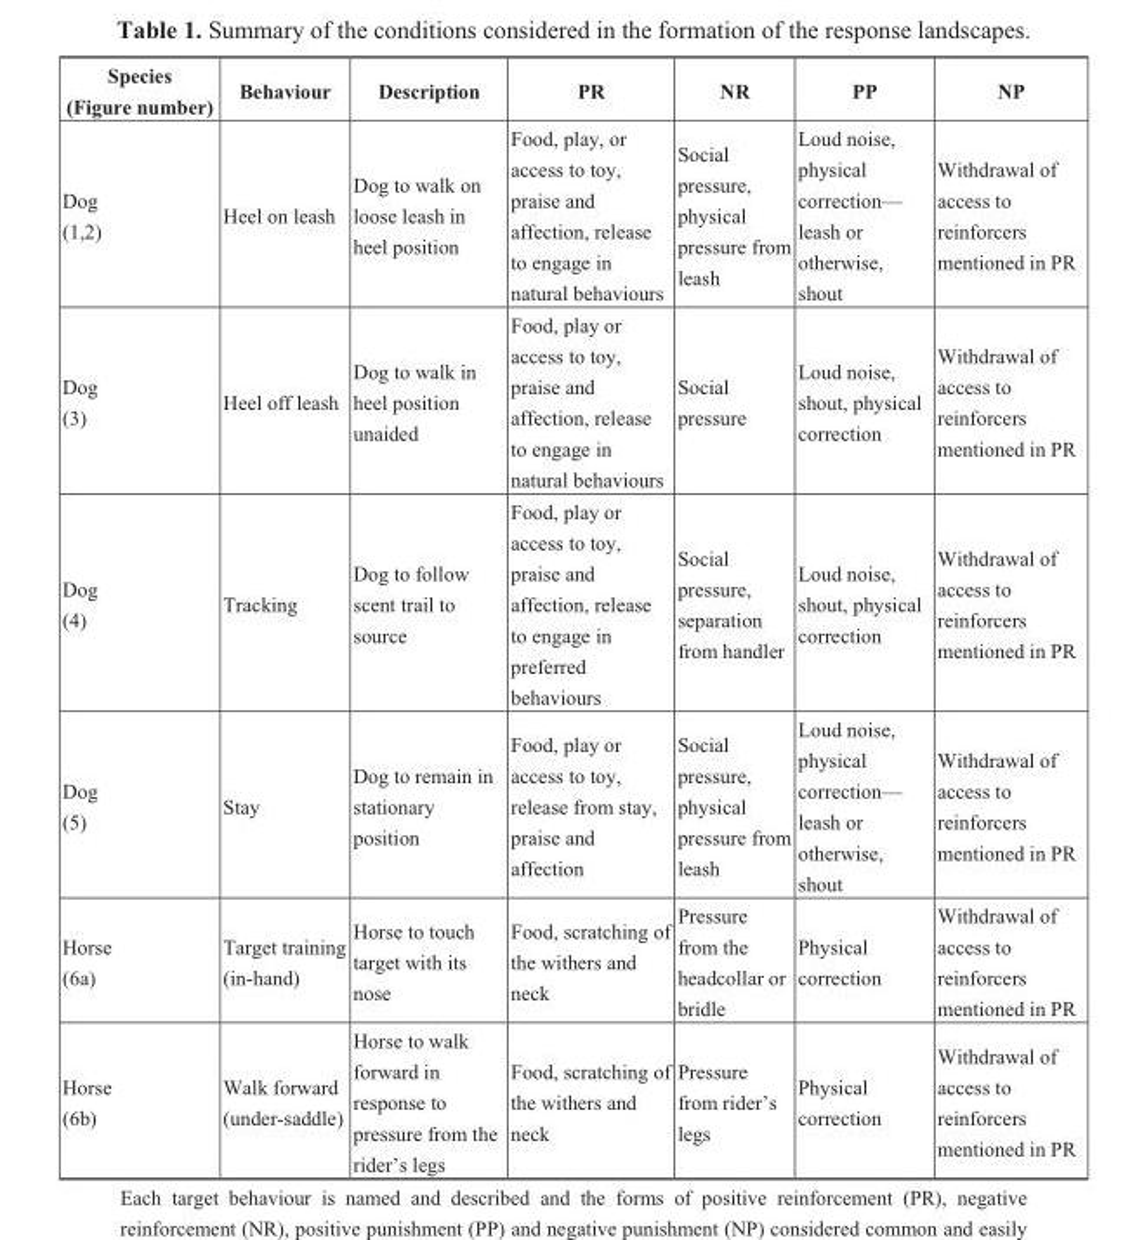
<table><thead><tr><td>Species�� (Figure number)</td><td>Behaviour</td><td>Description</td><td>PR</td><td>NR</td><td>PP</td><td>NP</td></tr></thead><tbody><tr><td>Dog (1,2)</td><td>Heel on leash</td><td>Dog to walk on loose leash in heel position</td><td>Food, play, or access to toy, praise and affection, release to engage in natural behaviours</td><td>Social pressure, physical pressure from leash</td><td>Loud noise, physical correction— leash or otherwise, shout</td><td>Withdrawal of access to reinforcers mentioned in PR</td></tr><tr><td>Dog (3)</td><td>Heel off leash</td><td>Dog to walk in heel position unaided</td><td>Food, play or access to toy, praise and affection, release to engage in natural behaviours</td><td>Social pressure</td><td>Loud noise, shout, physical correction</td><td>Withdrawal of access to reinforcers mentioned in PR</td></tr><tr><td>Dog (4)</td><td>Tracking</td><td>Dog to follow scent trail to source</td><td>Food, play or access to toy, praise and affection, release to engage in preferred behaviours</td><td>Social pressure, separation from handler</td><td>Loud noise, shout, physical correction</td><td>Withdrawal of access to reinforcers mentioned in PR</td></tr><tr><td>Dog (5)</td><td>Stay</td><td>Dog to remain in stationary position</td><td>Food, play or access to toy, release from stay, praise and affection</td><td>Social pressure, physical pressure from leash</td><td>Loud noise, physical correction— leash or otherwise, shout</td><td>Withdrawal of access to reinforcers mentioned in PR</td></tr><tr><td>Horse (6a)</td><td>Target training (in-hand)</td><td>Horse to touch target with its nose</td><td>Food, scratching of the withers and neck</td><td>Pressure from the headcollar or bridle</td><td>Physical correction</td><td>Withdrawal of access to reinforcers mentioned in PR</td></tr><tr><td>Horse (6b)</td><td>Walk forward (under-saddle)</td><td>Horse to walk forward in response to pressure from the rider’s legs</td><td>Food, scratching of the withers and neck</td><td>Pressure from rider’s legs</td><td>Physical correction</td><td>Withdrawal of access to reinforcers mentioned in PR</td></tr></tbody></table>